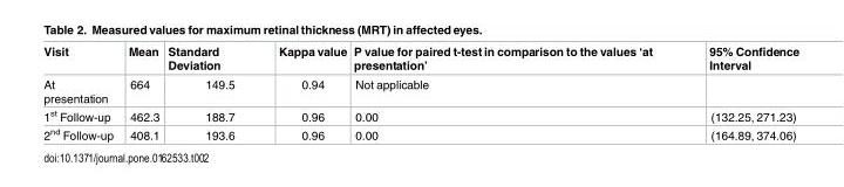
<table><thead><tr><td>Visit</td><td>Mean</td><td>Standard Deviation</td><td>Kappa value</td><td>P value for paired t-test in comparison to the values ‘at presentation’</td><td>95% Confidence Interval</td></tr></thead><tbody><tr><td>At presentation</td><td>664</td><td>149.5</td><td>0.94</td><td>Not applicable</td><td></td></tr><tr><td>1<sup>st</sup> Follow-up</td><td>462.3</td><td>188.7</td><td>0.96</td><td>0.00</td><td>(132.25, 271.23)</td></tr><tr><td>2<sup>nd</sup> Follow-up</td><td>408.1</td><td>193.6</td><td>0.96</td><td>0.00</td><td>(164.89, 374.06)</td></tr></tbody></table>